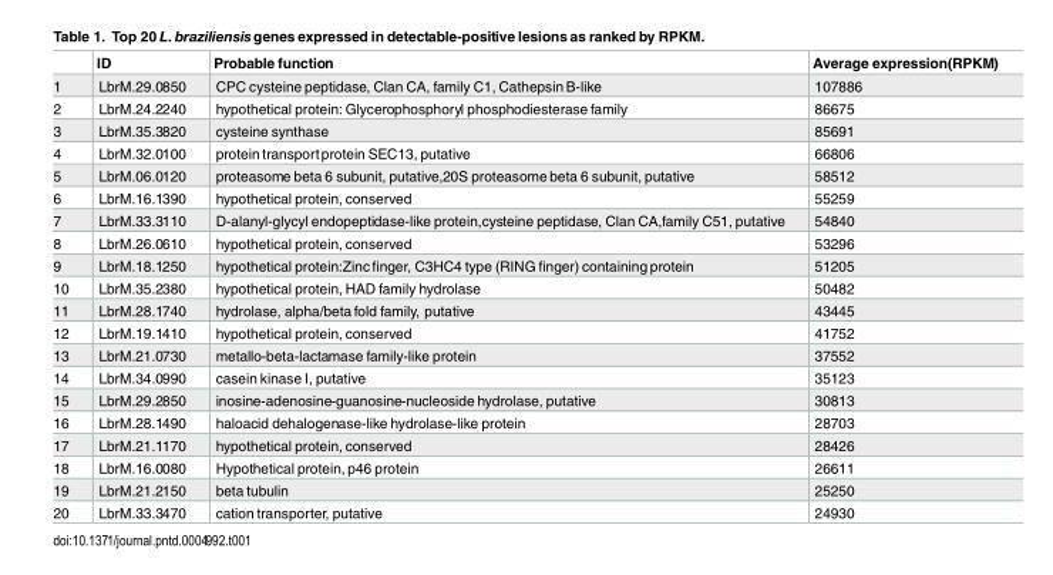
<table><thead><tr><td></td><td>ID</td><td>Probable function</td><td>Average expression(RPKM)</td></tr></thead><tbody><tr><td>1</td><td>LbrM.29.0850</td><td>CPC cysteine peptidase, Clan CA, family C1, Cathepsin B-like</td><td>107886</td></tr><tr><td>2</td><td>LbrM.24.2240</td><td>hypothetical protein: Glycerophosphoryl phosphodiesterase family</td><td>86675</td></tr><tr><td>3</td><td>LbrM.35.3820</td><td>cysteine synthase</td><td>85691</td></tr><tr><td>4</td><td>LbrM.32.0100</td><td>protein transportprotein SEC13, putative</td><td>66806</td></tr><tr><td>5</td><td>LbrM.06.0120</td><td>proteasome beta 6 subunit, putative,20S proteasome beta 6 subunit, putative</td><td>58512</td></tr><tr><td>6</td><td>LbrM.16.1390</td><td>hypothetical protein, conserved</td><td>55259</td></tr><tr><td>7</td><td>LbrM.33.3110</td><td>D-alanyl-glycyl endopeptidase-like protein,cysteine peptidase, Clan CA,family C51, putative</td><td>54840</td></tr><tr><td>8</td><td>LbrM.26.0610</td><td>hypothetical protein, conserved</td><td>53296</td></tr><tr><td>9</td><td>LbrM.18.1250</td><td>hypothetical protein:Zinc finger, C3HC4 type (RING finger) containing protein</td><td>51205</td></tr><tr><td>10</td><td>LbrM.35.2380</td><td>hypothetical protein, HAD family hydrolase</td><td>50482</td></tr><tr><td>11</td><td>LbrM.28.1740</td><td>hydrolase, alpha/beta fold family, putative</td><td>43445</td></tr><tr><td>12</td><td>LbrM.19.1410</td><td>hypothetical protein, conserved</td><td>41752</td></tr><tr><td>13</td><td>LbrM.21.0730</td><td>metallo-beta-lactamase family-like protein</td><td>37552</td></tr><tr><td>14</td><td>LbrM.34.0990</td><td>casein kinase I, putative</td><td>35123</td></tr><tr><td>15</td><td>LbrM.29.2850</td><td>inosine-adenosine-guanosine-nucleoside hydrolase, putative</td><td>30813</td></tr><tr><td>16</td><td>LbrM.28.1490</td><td>haloacid dehalogenase-like hydrolase-like protein</td><td>28703</td></tr><tr><td>17</td><td>LbrM.21.1170</td><td>hypothetical protein, conserved</td><td>28426</td></tr><tr><td>18</td><td>LbrM.16.0080</td><td>Hypothetical protein, p46 protein</td><td>26611</td></tr><tr><td>19</td><td>LbrM.21.2150</td><td>beta tubulin</td><td>25250</td></tr><tr><td>20</td><td>LbrM.33.3470</td><td>cation transporter, putative</td><td>24930</td></tr></tbody></table>